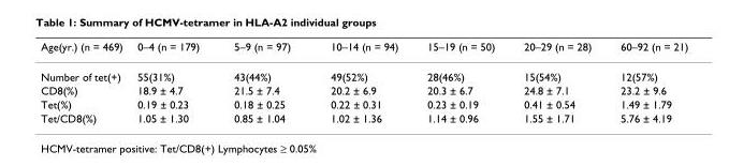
<table><thead><tr><td>Age(yr.) (n = 469)</td><td>0–4 (n = 179)</td><td>5–9 (n = 97)</td><td>10–14 (n = 94)</td><td>15–19 (n = 50)</td><td>20–29 (n = 28)</td><td>60–92 (n = 21)</td></tr></thead><tbody><tr><td>Number of tet(+)</td><td>55(31%)</td><td>43(44%)</td><td>49(52%)</td><td>28(46%)</td><td>15(54%)</td><td>12(57%)</td></tr><tr><td>CD8(%)</td><td>18.9 ± 4.7</td><td>21.5 ± 7.4</td><td>20.2 ± 6.9</td><td>20.3 ± 6.7</td><td>24.8 ± 7.1</td><td>23.2 ± 9.6</td></tr><tr><td>Tet(%)</td><td>0.19 ± 0.23</td><td>0.18 ± 0.25</td><td>0.22 ± 0.31</td><td>0.23 ± 0.19</td><td>0.41 ± 0.54</td><td>1.49 ± 1.79</td></tr><tr><td>Tet/CD8(%)</td><td>1.05 ± 1.30</td><td>0.85 ± 1.04</td><td>1.02 ± 1.36</td><td>1.14 ± 0.96</td><td>1.55 ± 1.71</td><td>5.76 ± 4.19</td></tr></tbody></table>